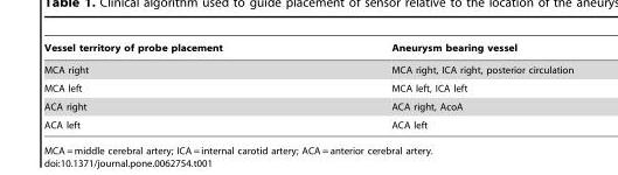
<table><thead><tr><td>Vessel territory of probe placement</td><td>Aneurysm bearing vessel</td></tr></thead><tbody><tr><td>MCA right</td><td>MCA right, ICA right, posterior circulation</td></tr><tr><td>MCA left</td><td>MCA left, ICA left</td></tr><tr><td>ACA right</td><td>ACA right, AcoA</td></tr><tr><td>ACA left</td><td>ACA left</td></tr></tbody></table>